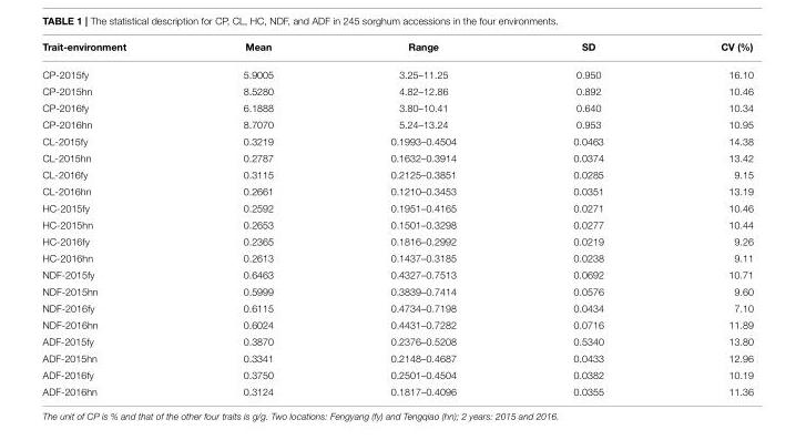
<table><thead><tr><td>Trait-environment</td><td>Mean</td><td>Range</td><td>SD</td><td>CV (%)</td></tr></thead><tbody><tr><td>CP-2015fy</td><td>5.9005</td><td>3.25–11.25</td><td>0.950</td><td>16.10</td></tr><tr><td>CP-2015hn</td><td>8.5280</td><td>4.82–12.86</td><td>0.892</td><td>10.46</td></tr><tr><td>CP-2016fy</td><td>6.1888</td><td>3.80–10.41</td><td>0.640</td><td>10.34</td></tr><tr><td>CP-2016hn</td><td>8.7070</td><td>5.24–13.24</td><td>0.953</td><td>10.95</td></tr><tr><td>CL-2015fy</td><td>0.3219</td><td>0.1993–0.4504</td><td>0.0463</td><td>14.38</td></tr><tr><td>CL-2015hn</td><td>0.2787</td><td>0.1632–0.3914</td><td>0.0374</td><td>13.42</td></tr><tr><td>CL-2016fy</td><td>0.3115</td><td>0.2125–0.3851</td><td>0.0285</td><td>9.15</td></tr><tr><td>CL-2016hn</td><td>0.2661</td><td>0.1210–0.3453</td><td>0.0351</td><td>13.19</td></tr><tr><td>HC-2015fy</td><td>0.2592</td><td>0.1951–0.4165</td><td>0.0271</td><td>10.46</td></tr><tr><td>HC-2015hn</td><td>0.2653</td><td>0.1501–0.3298</td><td>0.0277</td><td>10.44</td></tr><tr><td>HC-2016fy</td><td>0.2365</td><td>0.1816–0.2992</td><td>0.0219</td><td>9.26</td></tr><tr><td>HC-2016hn</td><td>0.2613</td><td>0.1437–0.3185</td><td>0.0238</td><td>9.11</td></tr><tr><td>NDF-2015fy</td><td>0.6463</td><td>0.4327–0.7513</td><td>0.0692</td><td>10.71</td></tr><tr><td>NDF-2015hn</td><td>0.5999</td><td>0.3839–0.7414</td><td>0.0576</td><td>9.60</td></tr><tr><td>NDF-2016fy</td><td>0.6115</td><td>0.4734–0.7198</td><td>0.0434</td><td>7.10</td></tr><tr><td>NDF-2016hn</td><td>0.6024</td><td>0.4431–0.7282</td><td>0.0716</td><td>11.89</td></tr><tr><td>ADF-2015fy</td><td>0.3870</td><td>0.2376–0.5208</td><td>0.5340</td><td>13.80</td></tr><tr><td>ADF-2015hn</td><td>0.3341</td><td>0.2148–0.4687</td><td>0.0433</td><td>12.96</td></tr><tr><td>ADF-2016fy</td><td>0.3750</td><td>0.2501–0.4504</td><td>0.0382</td><td>10.19</td></tr><tr><td>ADF-2016hn</td><td>0.3124</td><td>0.1817–0.4096</td><td>0.0355</td><td>11.36</td></tr></tbody></table>